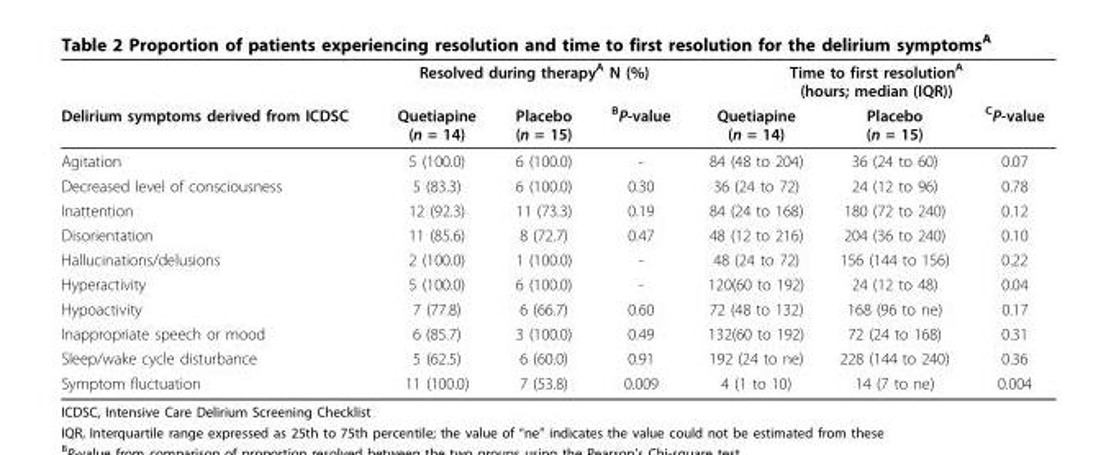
<table><thead><tr><td rowspan="2">Delirium symptoms derived from ICDSC</td><td colspan="3">Resolved during therapy<sup>A</sup> N (%)</td><td colspan="3">Time to first resolution<sup>A</sup> (hours; median (IQR))</td></tr><tr><td>Quetiapine (n = 14)</td><td>Placebo (n = 15)</td><td><sup>B</sup>P-value</td><td>Quetiapine (n = 14)</td><td>Placebo (n = 15)</td><td><sup>C</sup>P-value</td></tr></thead><tbody><tr><td>Agitation</td><td>5 (100.0)</td><td>6 (100.0)</td><td>-</td><td>84 (48 to 204)</td><td>36 (24 to 60)</td><td>0.07</td></tr><tr><td>Decreased level of consciousness</td><td>5 (83.3)</td><td>6 (100.0)</td><td>0.30</td><td>36 (24 to 72)</td><td>24 (12 to 96)</td><td>0.78</td></tr><tr><td>Inattention</td><td>12 (92.3)</td><td>11 (73.3)</td><td>0.19</td><td>84 (24 to 168)</td><td>180 (72 to 240)</td><td>0.12</td></tr><tr><td>Disorientation</td><td>11 (85.6)</td><td>8 (72.7)</td><td>0.47</td><td>48 (12 to 216)</td><td>204 (36 to 240)</td><td>0.10</td></tr><tr><td>Hallucinations/delusions</td><td>2 (100.0)</td><td>1 (100.0)</td><td>-</td><td>48 (24 to 72)</td><td>156 (144 to 156)</td><td>0.22</td></tr><tr><td>Hyperactivity</td><td>5 (100.0)</td><td>6 (100.0)</td><td>-</td><td>120(60 to 192)</td><td>24 (12 to 48)</td><td>0.04</td></tr><tr><td>Hypoactivity</td><td>7 (77.8)</td><td>6 (66.7)</td><td>0.60</td><td>72 (48 to 132)</td><td>168 (96 to ne)</td><td>0.17</td></tr><tr><td>Inappropriate speech or mood</td><td>6 (85.7)</td><td>3 (100.0)</td><td>0.49</td><td>132(60 to 192)</td><td>72 (24 to 168)</td><td>0.31</td></tr><tr><td>Sleep/wake cycle disturbance</td><td>5 (62.5)</td><td>6 (60.0)</td><td>0.91</td><td>192 (24 to ne)</td><td>228 (144 to 240)</td><td>0.36</td></tr><tr><td>Symptom fluctuation</td><td>11 (100.0)</td><td>7 (53.8)</td><td>0.009</td><td>4 (1 to 10)</td><td>14 (7 to ne)</td><td>0.004</td></tr></tbody></table>